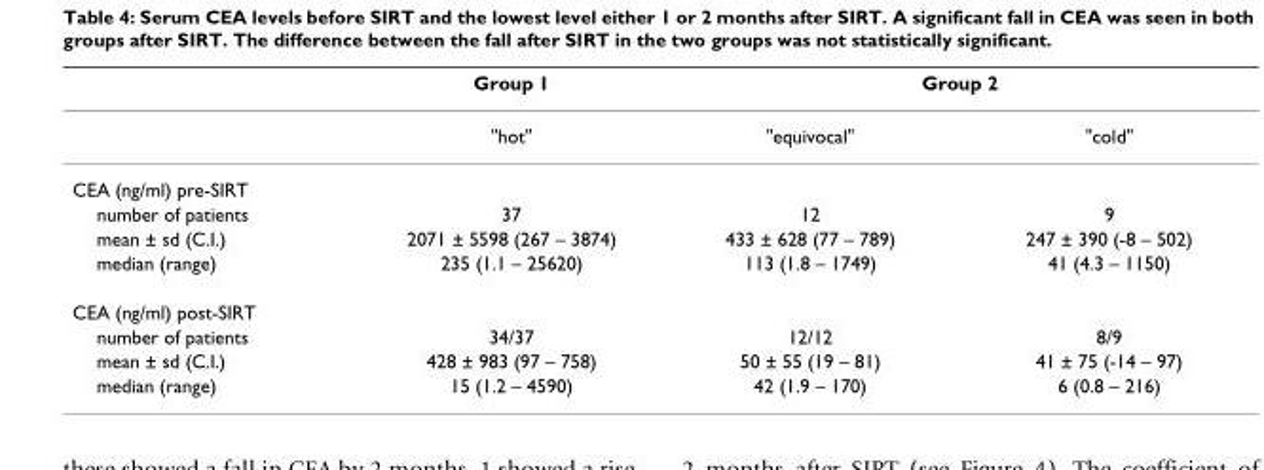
<table><thead><tr><td rowspan="2"></td><td rowspan="2">Group 1 &quot;hot&quot;</td><td colspan="2">Group 2</td></tr><tr><td>&quot;equivocal&quot;</td><td>&quot;cold&quot;</td></tr></thead><tbody><tr><td colspan="4">CEA (ng/ml) pre-SIRT</td></tr><tr><td>number of patients</td><td>37</td><td>12</td><td>9</td></tr><tr><td>mean ± sd (C.I.)</td><td>2071 ± 5598 (267 – 3874)</td><td>433 ± 628 (77 – 789)</td><td>247 ± 390 (-8 – 502)</td></tr><tr><td>median (range)</td><td>235 (1.1 – 25620)</td><td>113 (1.8 – 1749)</td><td>41 (4.3 – 1150)</td></tr><tr><td colspan="4">CEA (ng/ml) post-SIRT</td></tr><tr><td>number of patients</td><td>34/37</td><td>12/12</td><td>8/9</td></tr><tr><td>mean ± sd (C.I.)</td><td>428 ± 983 (97 – 758)</td><td>50 ± 55 (19 – 81)</td><td>41 ± 75 (-14 – 97)</td></tr><tr><td>median (range)</td><td>15 (1.2 – 4590)</td><td>42 (1.9 – 170)</td><td>6 (0.8 – 216)</td></tr></tbody></table>